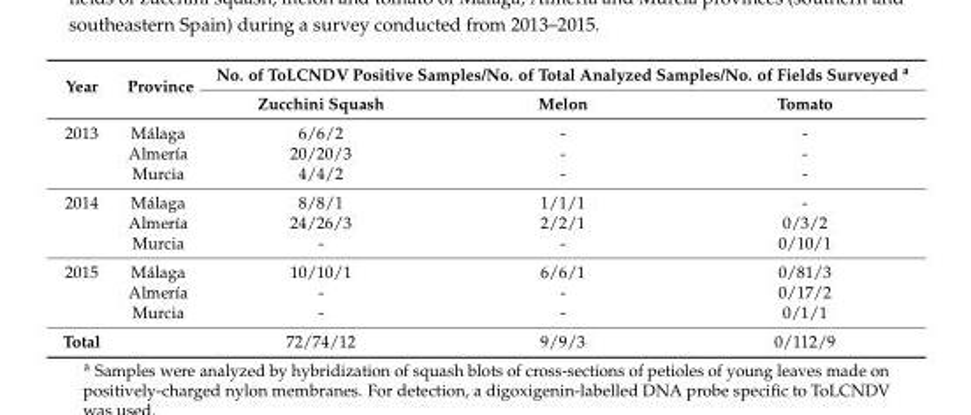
<table><thead><tr><td rowspan="2">Year</td><td rowspan="2">Province</td><td colspan="3">No. of ToLCNDV Positive Samples/No. of Total Analyzed Samples/No. of Fields Surveyed <sup>a</sup></td></tr><tr><td>Zucchini Squash</td><td>Melon</td><td>Tomato</td></tr></thead><tbody><tr><td rowspan="3">2013</td><td>Málaga</td><td>6/6/2</td><td>-</td><td>-</td></tr><tr><td>Almería</td><td>20/20/3</td><td>-</td><td>-</td></tr><tr><td>Murcia</td><td>4/4/2</td><td>-</td><td>-</td></tr><tr><td rowspan="3">2014</td><td>Málaga</td><td>8/8/1</td><td>1/1/1</td><td>-</td></tr><tr><td>Almería</td><td>24/26/3</td><td>2/2/1</td><td>0/3/2</td></tr><tr><td>Murcia</td><td>-</td><td>-</td><td>0/10/1</td></tr><tr><td rowspan="3">2015</td><td>Málaga</td><td>10/10/1</td><td>6/6/1</td><td>0/81/3</td></tr><tr><td>Almería</td><td>-</td><td>-</td><td>0/17/2</td></tr><tr><td>Murcia</td><td>-</td><td>-</td><td>0/1/1</td></tr><tr><td>Total</td><td></td><td>72/74/12</td><td>9/9/3</td><td>0/112/9</td></tr></tbody></table>